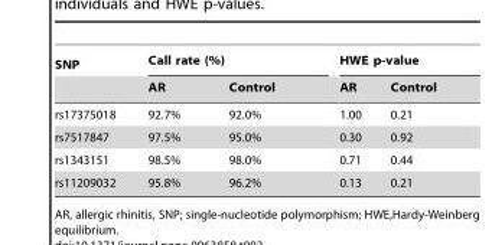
<table><thead><tr><td rowspan="2">SNP</td><td colspan="2">Call rate (%)</td><td colspan="2">HWE p-value</td></tr><tr><td>AR</td><td>Control</td><td>AR</td><td>Control</td></tr></thead><tbody><tr><td>rs17375018</td><td>92.7%</td><td>92.0%</td><td>1.00</td><td>0.21</td></tr><tr><td>rs7517847</td><td>97.5%</td><td>95.0%</td><td>0.30</td><td>0.92</td></tr><tr><td>rs1343151</td><td>98.5%</td><td>98.0%</td><td>0.71</td><td>0.44</td></tr><tr><td>rs11209032</td><td>95.8%</td><td>96.2%</td><td>0.13</td><td>0.21</td></tr></tbody></table>